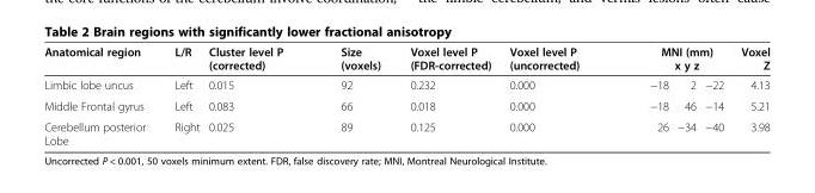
<table><thead><tr><td rowspan="2">Anatomical region Limbic lobe uncus</td><td rowspan="2">L/R Left</td><td rowspan="2">Cluster level P (corrected) 0.015</td><td rowspan="2">Size (voxels) 92</td><td rowspan="2">Voxel level P (FDR-corrected) 0.232</td><td rowspan="2">Voxel level P (uncorrected) 0.000</td><td colspan="3">MNI (mm) x y z</td><td rowspan="2">Voxel Z 4.13</td></tr><tr><td>−18</td><td>2</td><td>−22</td></tr></thead><tbody><tr><td>Middle Frontal gyrus</td><td>Left</td><td>0.083</td><td>66</td><td>0.018</td><td>0.000</td><td>−18</td><td>46</td><td>−14</td><td>5.21</td></tr><tr><td>Cerebellum posterior Lobe</td><td>Right</td><td>0.025</td><td>89</td><td>0.125</td><td>0.000</td><td>26</td><td>−34</td><td>−40</td><td>3.98</td></tr></tbody></table>